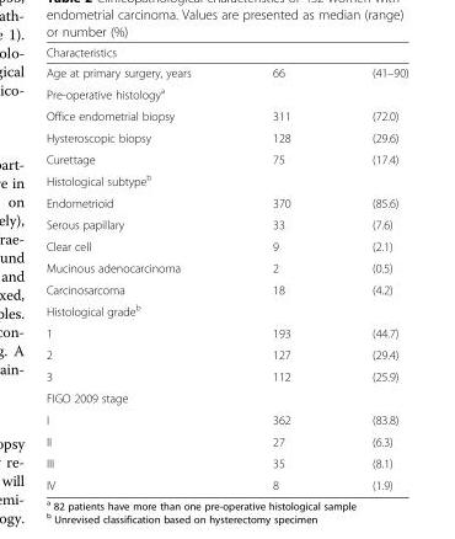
<table><thead><tr><td>Characteristics</td><td></td><td></td></tr></thead><tbody><tr><td>Age at primary surgery, years</td><td>66</td><td>(41–90)</td></tr><tr><td colspan="3">Pre-operative histology<sup>a</sup></td></tr><tr><td>Office endometrial biopsy</td><td>311</td><td>(72.0)</td></tr><tr><td>Hysteroscopic biopsy</td><td>128</td><td>(29.6)</td></tr><tr><td>Curettage</td><td>75</td><td>(17.4)</td></tr><tr><td colspan="3">Histological subtype<sup>b</sup></td></tr><tr><td>Endometrioid</td><td>370</td><td>(85.6)</td></tr><tr><td>Serous papillary</td><td>33</td><td>(7.6)</td></tr><tr><td>Clear cell</td><td>9</td><td>(2.1)</td></tr><tr><td>Mucinous adenocarcinoma</td><td>2</td><td>(0.5)</td></tr><tr><td>Carcinosarcoma</td><td>18</td><td>(4.2)</td></tr><tr><td colspan="3">Histological grade<sup>b</sup></td></tr><tr><td>1</td><td>193</td><td>(44.7)</td></tr><tr><td>2</td><td>127</td><td>(29.4)</td></tr><tr><td>3</td><td>112</td><td>(25.9)</td></tr><tr><td colspan="3">FIGO 2009 stage</td></tr><tr><td>I</td><td>362</td><td>(83.8)</td></tr><tr><td>II</td><td>27</td><td>(6.3)</td></tr><tr><td>III</td><td>35</td><td>(8.1)</td></tr><tr><td>IV</td><td>8</td><td>(1.9)</td></tr></tbody></table>